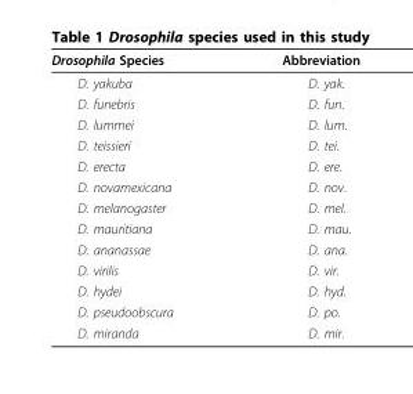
<table><thead><tr><td>Drosophila Species</td><td>Abbreviation</td></tr></thead><tbody><tr><td>D. yakuba</td><td>D. yak.</td></tr><tr><td>D. funebris</td><td>D. fun.</td></tr><tr><td>D. lummei</td><td>D. lum.</td></tr><tr><td>D. teissieri</td><td>D. tei.</td></tr><tr><td>D. erecta</td><td>D. ere.</td></tr><tr><td>D. novamexicana</td><td>D. nov.</td></tr><tr><td>D. melanogaster</td><td>D. mel.</td></tr><tr><td>D. mauritiana</td><td>D. mau.</td></tr><tr><td>D. ananassae</td><td>D. ana.</td></tr><tr><td>D. virilis</td><td>D. vir.</td></tr><tr><td>D. hydei</td><td>D. hyd.</td></tr><tr><td>D. pseudoobscura</td><td>D. po.</td></tr><tr><td>D. miranda</td><td>D. mir.</td></tr></tbody></table>